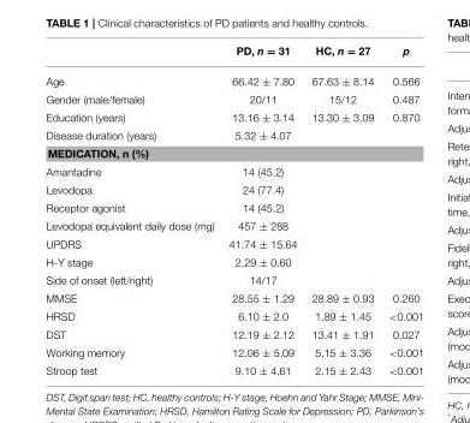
<table><thead><tr><td></td><td>PD, n = 31</td><td>HC, n = 27</td><td>p</td></tr></thead><tbody><tr><td>Age</td><td>66.42 ± 7.80</td><td>67.63 ± 8.14</td><td>0.566</td></tr><tr><td>Gender (male/female)</td><td>20/11</td><td>15/12</td><td>0.487</td></tr><tr><td>Education (years)</td><td>13.16 ± 3.14</td><td>13.30 ± 3.09</td><td>0.870</td></tr><tr><td>Disease duration (years)</td><td>5.32 ± 4.07</td><td></td><td></td></tr><tr><td colspan="4">MEDICATION, n (%)</td></tr><tr><td>Amantadine</td><td>14 (45.2)</td><td></td><td></td></tr><tr><td>Levodopa</td><td>24 (77.4)</td><td></td><td></td></tr><tr><td>Receptor agonist</td><td>14 (45.2)</td><td></td><td></td></tr><tr><td>Levodopa equivalent daily dose (mg)</td><td>457 ± 288</td><td></td><td></td></tr><tr><td>UPDRS</td><td>41.74 ± 15.64</td><td></td><td></td></tr><tr><td>H-Y stage</td><td>2.29 ± 0.60</td><td></td><td></td></tr><tr><td>Side of onset (left/right)</td><td>14/17</td><td></td><td></td></tr><tr><td>MMSE</td><td>28.55 ± 1.29</td><td>28.89 ± 0.93</td><td>0.260</td></tr><tr><td>HRSD</td><td>6.10 ± 2.0</td><td>1.89 ± 1.45</td><td>&lt;0.001</td></tr><tr><td>DST</td><td>12.19 ± 2.12</td><td>13.41 ± 1.91</td><td>0.027</td></tr><tr><td>Working memory</td><td>12.06 ± 5.09</td><td>5.15 ± 3.36</td><td>&lt;0.001</td></tr><tr><td>Stroop test</td><td>9.10 ± 4.61</td><td>2.15 ± 2.43</td><td>&lt;0.001</td></tr></tbody></table>